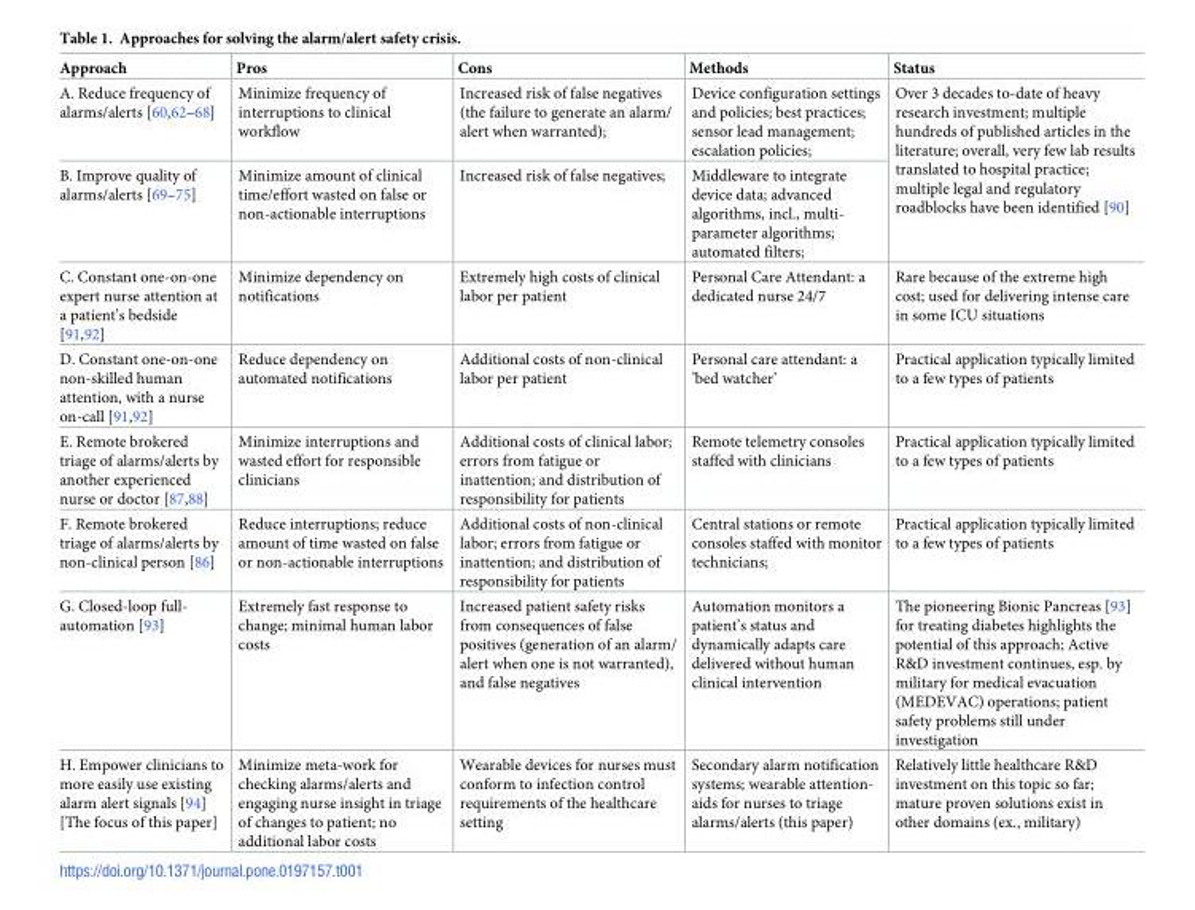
<table><thead><tr><td>Approach</td><td>Pros</td><td>Cons</td><td>Methods</td><td>Status</td></tr></thead><tbody><tr><td>A. Reduce frequency of alarms/alerts [60,62–68]</td><td>Minimize frequency of interruptions to clinical workflow</td><td>Increased risk of false negatives (the failure to generate an alarm/ alert when warranted);</td><td>Device configuration settings and policies; best practices; sensor lead management; escalation policies;</td><td rowspan="2">Over 3 decades to-date of heavy research investment; multiple hundreds of published articles in the literature; overall, very few lab results translated to hospital practice; multiple legal and regulatory roadblocks have been identified [90]</td></tr><tr><td>B. Improve quality of alarms/alerts [69–75]</td><td>Minimize amount of clinical time/effort wasted on false or non-actionable interruptions</td><td>Increased risk of false negatives;</td><td>Middleware to integrate device data; advanced algorithms, incl., multi- parameter algorithms; automated filters;</td></tr><tr><td>C. Constant one-on-one expert nurse attention at a patient’s bedside [91,92]</td><td>Minimize dependency on notifications</td><td>Extremely high costs of clinical labor per patient</td><td>Personal Care Attendant: a dedicated nurse 24/7</td><td>Rare because of the extreme high cost; used for delivering intense care in some ICU situations</td></tr><tr><td>D. Constant one-on-one non-skilled human attention, with a nurse on-call [91,92]</td><td>Reduce dependency on automated notifications</td><td>Additional costs of non-clinical labor per patient</td><td>Personal care attendant: a ’bed watcher’</td><td>Practical application typically limited to a few types of patients</td></tr><tr><td>E. Remote brokered triage of alarms/alerts by another experienced nurse or doctor [87,88]</td><td>Minimize interruptions and wasted effort for responsible clinicians</td><td>Additional costs of clinical labor; errors from fatigue or inattention; and distribution of responsibility for patients</td><td>Remote telemetry consoles staffed with clinicians</td><td>Practical application typically limited to a few types of patients</td></tr><tr><td>F. Remote brokered triage of alarms/alerts by non-clinical person [86]</td><td>Reduce interruptions; reduce amount of time wasted on false or non-actionable interruptions</td><td>Additional costs of non-clinical labor; errors from fatigue or inattention; and distribution of responsibility for patients</td><td>Central stations or remote consoles staffed with monitor technicians;</td><td>Practical application typically limited to a few types of patients</td></tr><tr><td>G. Closed-loop full- automation [93]</td><td>Extremely fast response to change; minimal human labor costs</td><td>Increased patient safety risks from consequences of false positives (generation of an alarm/ alert when one is not warranted), and false negatives</td><td>Automation monitors a patient’s status and dynamically adapts care delivered without human clinical intervention</td><td>The pioneering Bionic Pancreas [93] for treating diabetes highlights the potential of this approach; Active R&amp;D investment continues, esp. by military for medical evacuation (MEDEVAC) operations; patient safety problems still under investigation</td></tr><tr><td>H. Empower clinicians to more easily use existing alarm alert signals [94] [The focus of this paper]</td><td>Minimize meta-work for checking alarms/alerts and engaging nurse insight in triage of changes to patient; no additional labor costs</td><td>Wearable devices for nurses must conform to infection control requirements of the healthcare setting</td><td>Secondary alarm notification systems; wearable attention- aids for nurses to triage alarms/alerts (this paper)</td><td>Relatively little healthcare R&amp;D investment on this topic so far; mature proven solutions exist in other domains (ex., military)</td></tr></tbody></table>